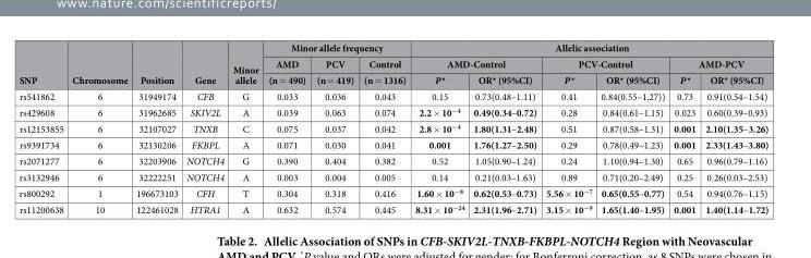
<table><thead><tr><td rowspan="3">SNP</td><td rowspan="3">Chromosome</td><td rowspan="3">Position</td><td rowspan="3">Gene</td><td rowspan="3">Minor allele</td><td colspan="3">Minor allele frequency</td><td colspan="6">Allelic association</td></tr><tr><td rowspan="2">AMD (n = 490)</td><td rowspan="2">PCV (n = 419)</td><td rowspan="2">Control (n = 1316)</td><td colspan="2">AMD-Control</td><td colspan="2">PCV-Control</td><td colspan="2">AMD-PCV</td></tr><tr><td>P*</td><td>OR* (95%CI)</td><td>P*</td><td>OR* (95%CI)</td><td>P*</td><td>OR* (95%CI)</td></tr></thead><tbody><tr><td>rs541862</td><td>6</td><td>31949174</td><td>CFB</td><td>G</td><td>0.033</td><td>0.036</td><td>0.043</td><td>0.15</td><td>0.73(0.48–1.11)</td><td>0.41</td><td>0.84(0.55–1.27))</td><td>0.73</td><td>0.91(0.54–1.54)</td></tr><tr><td>rs429608</td><td>6</td><td>31962685</td><td>SKIV2L</td><td>A</td><td>0.039</td><td>0.063</td><td>0.074</td><td>2.2 × 10<sup>−4</sup></td><td>0.49(0.34–0.72)</td><td>0.28</td><td>0.84(0.61–1.15)</td><td>0.023</td><td>0.60(0.39–0.93)</td></tr><tr><td>rs12153855</td><td>6</td><td>32107027</td><td>TNXB</td><td>C</td><td>0.075</td><td>0.037</td><td>0.042</td><td>2.8 × 10<sup>−4</sup></td><td>1.80(1.31–2.48)</td><td>0.51</td><td>0.87(0.58–1.31)</td><td>0.001</td><td>2.10(1.35–3.26)</td></tr><tr><td>rs9391734</td><td>6</td><td>32130206</td><td>FKBPL</td><td>A</td><td>0.071</td><td>0.030</td><td>0.041</td><td>0.001</td><td>1.76(1.27–2.50)</td><td>0.29</td><td>0.78(0.49–1.23)</td><td>0.001</td><td>2.33(1.43–3.80)</td></tr><tr><td>rs2071277</td><td>6</td><td>32203906</td><td>NOTCH4</td><td>G</td><td>0.390</td><td>0.404</td><td>0.382</td><td>0.52</td><td>1.05(0.90–1.24)</td><td>0.24</td><td>1.10(0.94–1.30)</td><td>0.65</td><td>0.96(0.79–1.16)</td></tr><tr><td>rs3132946</td><td>6</td><td>32222251</td><td>NOTCH4</td><td>A</td><td>0.003</td><td>0.004</td><td>0.005</td><td>0.14</td><td>0.21(0.03–1.63)</td><td>0.89</td><td>0.71(0.20–2.49)</td><td>0.25</td><td>0.26(0.03–2.53)</td></tr><tr><td>rs800292</td><td>1</td><td>196673103</td><td>CFH</td><td>T</td><td>0.304</td><td>0.318</td><td>0.416</td><td>1.60 × 10<sup>−8</sup></td><td>0.62(0.53–0.73)</td><td>5.56 × 10<sup>−7</sup></td><td>0.65(0.55–0.77)</td><td>0.54</td><td>0.94(0.76–1.15)</td></tr><tr><td>rs11200638</td><td>10</td><td>122461028</td><td>HTRA1</td><td>A</td><td>0.632</td><td>0.574</td><td>0.445</td><td>8.31 × 10<sup>−24</sup></td><td>2.31(1.96–2.71)</td><td>3.15 × 10<sup>−9</sup></td><td>1.65(1.40–1.95)</td><td>0.001</td><td>1.40(1.14–1.72)</td></tr></tbody></table>